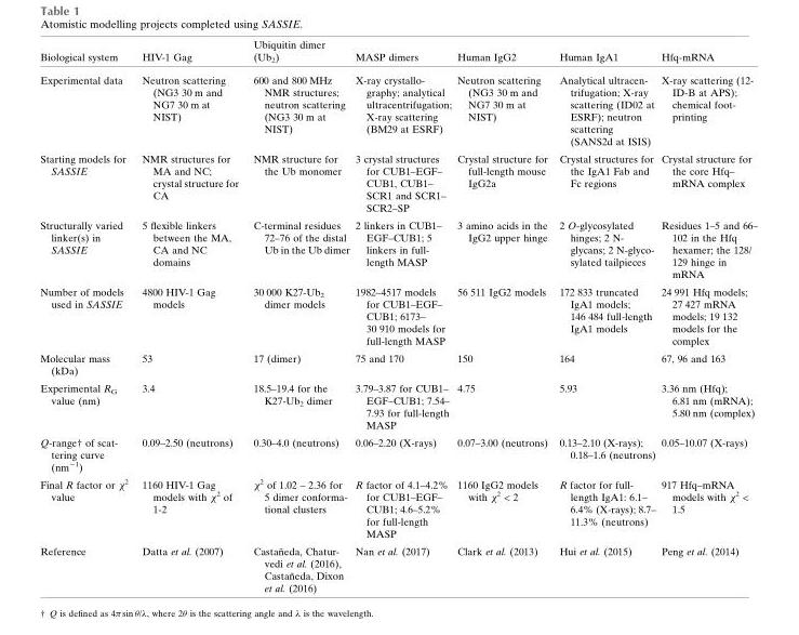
<table><thead><tr><td>Biological system</td><td>HIV-1 Gag</td><td>Ubiquitin dimer (Ub<sub>2</sub>)</td><td>MASP dimers</td><td>Human IgG2</td><td>Human IgA1</td><td>Hfq-mRNA</td></tr></thead><tbody><tr><td>Experimental data</td><td>Neutron scattering (NG3 30 m and NG7 30 m at NIST)</td><td>600 and 800 MHz NMR structures; neutron scattering (NG3 30 m at NIST)</td><td>X-ray crystallo- graphy; analytical ultracentrifugation; X-ray scattering (BM29 at ESRF)</td><td>Neutron scattering (NG3 30 m and NG7 30 m at NIST)</td><td>Analytical ultracen- trifugation; X-ray scattering (ID02 at ESRF); neutron scattering (SANS2d at ISIS)</td><td>X-ray scattering (12- ID-B at APS); chemical foot- printing</td></tr><tr><td>Starting models for SASSIE</td><td>NMR structures for MA and NC; crystal structure for CA</td><td>NMR structure for the Ub monomer</td><td>3 crystal structures for CUB1–EGF– CUB1, CUB1– SCR1 and SCR1– SCR2–SP</td><td>Crystal structure for full-length mouse IgG2a</td><td>Crystal structures for the IgA1 Fab and Fc regions</td><td>Crystal structure for the core Hfq– mRNA complex</td></tr><tr><td>Structurally varied linker(s) in SASSIE</td><td>5 flexible linkers between the MA, CA and NC domains</td><td>C-terminal residues 72–76 of the distal Ub in the Ub dimer</td><td>2 linkers in CUB1– EGF–CUB1; 5 linkers in full- length MASP</td><td>3 amino acids in the IgG2 upper hinge</td><td>2 O-glycosylated hinges; 2 N- glycans; 2 N-glyco- sylated tailpieces</td><td>Residues 1–5 and 66– 102 in the Hfq hexamer; the 128/ 129 hinge in mRNA</td></tr><tr><td>Number of models used in SASSIE</td><td>4800 HIV-1 Gag models</td><td>30 000 K27-Ub<sub>2</sub> dimer models</td><td>1982–4517 models for CUB1–EGF– CUB1; 6173– 30 910 models for full-length MASP</td><td>56 511 IgG2 models</td><td>172 833 truncated IgA1 models; 146 484 full-length IgA1 models</td><td>24 991 Hfq models; 27 427 mRNA models; 19 132 models for the complex</td></tr><tr><td>Molecular mass (kDa)</td><td>53</td><td>17 (dimer)</td><td>75 and 170</td><td>150</td><td>164</td><td>67, 96 and 163</td></tr><tr><td>Experimental R<sub>G</sub> value (nm)</td><td>3.4</td><td>18.5–19.4 for the K27-Ub<sub>2</sub> dimer</td><td>3.79–3.87 for CUB1– EGF–CUB1; 7.54– 7.93 for full-length MASP</td><td>4.75</td><td>5.93</td><td>3.36 nm (Hfq); 6.81 nm (mRNA); 5.80 nm (complex)</td></tr><tr><td>Q-range† of scat- tering curve (nm�1)</td><td>0.09–2.50 (neutrons)</td><td>0.30–4.0 (neutrons)</td><td>0.06–2.20 (X-rays)</td><td>0.07–3.00 (neutrons)</td><td>0.13–2.10 (X-rays); 0.18–1.6 (neutrons)</td><td>0.05–10.07 (X-rays)</td></tr><tr><td>Final R factor or χ<sup>2</sup> value</td><td>1160 HIV-1 Gag models with χ<sup>2</sup> of 1-2</td><td>�2 of 1.02 – 2.36 for 5 dimer conforma- tional clusters</td><td>R factor of 4.1–4.2% for CUB1–EGF– CUB1; 4.6–5.2% for full-length MASP</td><td>1160 IgG2 models with χ<sup>2</sup> &lt; 2</td><td>R factor for full- length IgA1: 6.1– 6.4% (X-rays); 8.7– 11.3% (neutrons)</td><td>917 Hfq–mRNA models with χ<sup>2</sup> &lt; 1.5</td></tr><tr><td>Reference</td><td>Datta et al. (2007)</td><td>Castan˜eda, Chatur- vedi et al. (2016), Castan˜eda, Dixon et al. (2016)</td><td>Nan et al. (2017)</td><td>Clark et al. (2013)</td><td>Hui et al. (2015)</td><td>Peng et al. (2014)</td></tr></tbody></table>